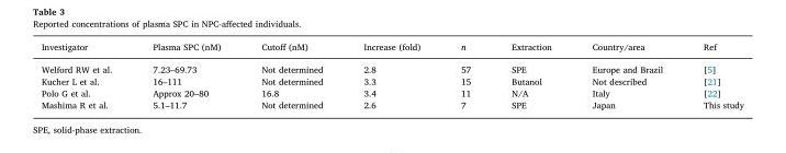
<table><thead><tr><td>Investigator</td><td>Plasma SPC (nM)</td><td>Cutoff (nM)</td><td>Increase (fold)</td><td>n</td><td>Extraction</td><td>Country/area</td><td>Ref</td></tr></thead><tbody><tr><td>Welford RW et al.</td><td>7.23–69.73</td><td>Not determined</td><td>2.8</td><td>57</td><td>SPE</td><td>Europe and Brazil</td><td>[5]</td></tr><tr><td>Kucher L et al.</td><td>16–111</td><td>Not determined</td><td>3.3</td><td>15</td><td>Butanol</td><td>Not described</td><td>[21]</td></tr><tr><td>Polo G et al.</td><td>Approx 20–80</td><td>16.8</td><td>3.4</td><td>11</td><td>N/A</td><td>Italy</td><td>[22]</td></tr><tr><td>Mashima R et al.</td><td>5.1–11.7</td><td>Not determined</td><td>2.6</td><td>7</td><td>SPE</td><td>Japan</td><td>This study</td></tr></tbody></table>